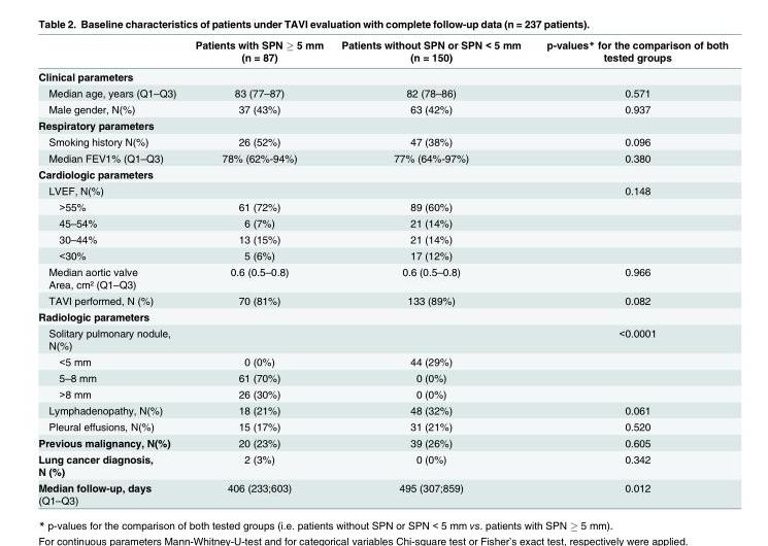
<table><thead><tr><td></td><td>Patients with SPN ≥ 5 mm (n = 87)</td><td>Patients without SPN or SPN &lt; 5 mm (n = 150)</td><td>p-values* for the comparison of both tested groups</td></tr></thead><tbody><tr><td colspan="4">Clinical parameters</td></tr><tr><td>Median age, years (Q1–Q3)</td><td>83 (77–87)</td><td>82 (78–86)</td><td>0.571</td></tr><tr><td>Male gender, N(%)</td><td>37 (43%)</td><td>63 (42%)</td><td>0.937</td></tr><tr><td colspan="4">Respiratory parameters</td></tr><tr><td>Smoking history N(%)</td><td>26 (52%)</td><td>47 (38%)</td><td>0.096</td></tr><tr><td>Median FEV1% (Q1–Q3)</td><td>78% (62%-94%)</td><td>77% (64%-97%)</td><td>0.380</td></tr><tr><td colspan="4">Cardiologic parameters</td></tr><tr><td>LVEF, N(%)</td><td></td><td></td><td>0.148</td></tr><tr><td>&gt;55%</td><td>61 (72%)</td><td>89 (60%)</td><td></td></tr><tr><td>45–54%</td><td>6 (7%)</td><td>21 (14%)</td><td></td></tr><tr><td>30–44%</td><td>13 (15%)</td><td>21 (14%)</td><td></td></tr><tr><td>&lt;30%</td><td>5 (6%)</td><td>17 (12%)</td><td></td></tr><tr><td>Median aortic valve Area, cm² (Q1–Q3)</td><td>0.6 (0.5–0.8)</td><td>0.6 (0.5–0.8)</td><td>0.966</td></tr><tr><td>TAVI performed, N (%)</td><td>70 (81%)</td><td>133 (89%)</td><td>0.082</td></tr><tr><td colspan="4">Radiologic parameters</td></tr><tr><td>Solitary pulmonary nodule, N(%)</td><td></td><td></td><td>&lt;0.0001</td></tr><tr><td>&lt;5 mm</td><td>0 (0%)</td><td>44 (29%)</td><td></td></tr><tr><td>5–8 mm</td><td>61 (70%)</td><td>0 (0%)</td><td></td></tr><tr><td>&gt;8 mm</td><td>26 (30%)</td><td>0 (0%)</td><td></td></tr><tr><td>Lymphadenopathy, N(%)</td><td>18 (21%)</td><td>48 (32%)</td><td>0.061</td></tr><tr><td>Pleural effusions, N(%)</td><td>15 (17%)</td><td>31 (21%)</td><td>0.520</td></tr><tr><td>Previous malignancy, N(%)</td><td>20 (23%)</td><td>39 (26%)</td><td>0.605</td></tr><tr><td>Lung cancer diagnosis, N (%)</td><td>2 (3%)</td><td>0 (0%)</td><td>0.342</td></tr><tr><td>Median follow-up, days (Q1–Q3)</td><td>406 (233;603)</td><td>495 (307;859)</td><td>0.012</td></tr></tbody></table>